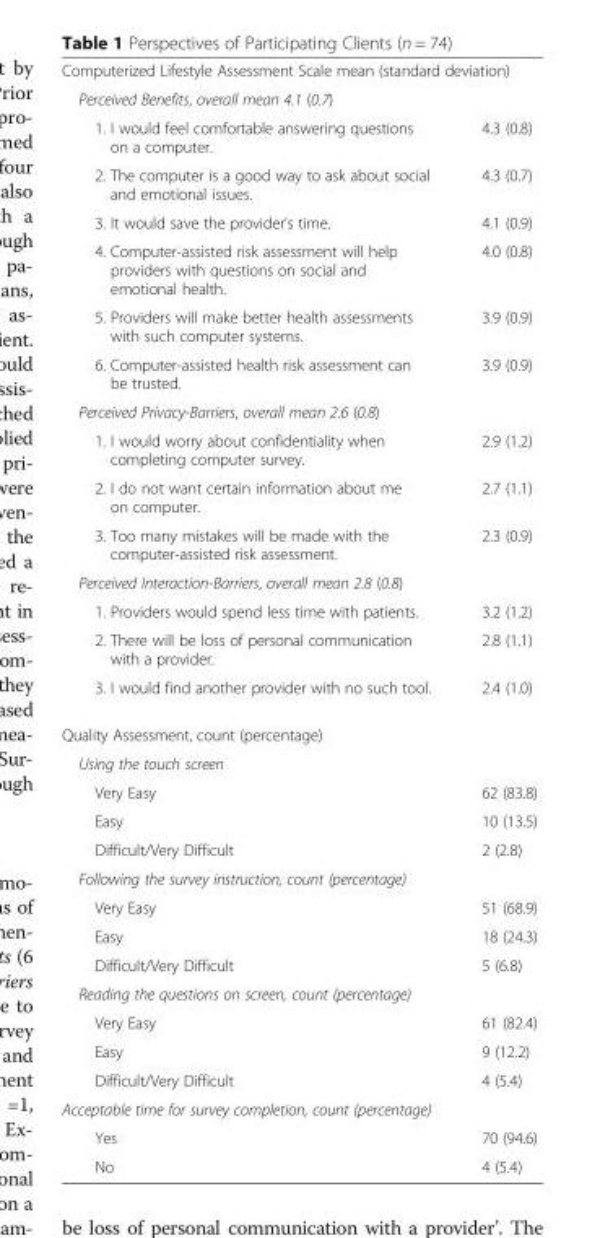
<table><tbody><tr><td colspan="2">Computerized Lifestyle Assessment Scale mean (standard deviation)</td></tr><tr><td colspan="2">Perceived Benefits, overall mean 4.1 (0.7)</td></tr><tr><td>1. I would feel comfortable answering questions on a computer.</td><td>4.3 (0.8)</td></tr><tr><td>2. The computer is a good way to ask about social and emotional issues.</td><td>4.3 (0.7)</td></tr><tr><td>3. It would save the provider’s time.</td><td>4.1 (0.9)</td></tr><tr><td>4. Computer-assisted risk assessment will help providers with questions on social and emotional health.</td><td>4.0 (0.8)</td></tr><tr><td>5. Providers will make better health assessments with such computer systems.</td><td>3.9 (0.9)</td></tr><tr><td>6. Computer-assisted health risk assessment can be trusted.</td><td>3.9 (0.9)</td></tr><tr><td colspan="2">Perceived Privacy-Barriers, overall mean 2.6 (0.8)</td></tr><tr><td>1. I would worry about confidentiality when completing computer survey.</td><td>2.9 (1.2)</td></tr><tr><td>2. I do not want certain information about me on computer.</td><td>2.7 (1.1)</td></tr><tr><td>3. Too many mistakes will be made with the computer-assisted risk assessment.</td><td>2.3 (0.9)</td></tr><tr><td colspan="2">Perceived Interaction-Barriers, overall mean 2.8 (0.8)</td></tr><tr><td>1. Providers would spend less time with patients.</td><td>3.2 (1.2)</td></tr><tr><td>2. There will be loss of personal communication with a provider.</td><td>2.8 (1.1)</td></tr><tr><td>3. I would find another provider with no such tool.</td><td>2.4 (1.0)</td></tr><tr><td colspan="2">Quality Assessment, count (percentage)</td></tr><tr><td colspan="2">Using the touch screen</td></tr><tr><td>Very Easy</td><td>62 (83.8)</td></tr><tr><td>Easy</td><td>10 (13.5)</td></tr><tr><td>Difficult/Very Difficult</td><td>2 (2.8)</td></tr><tr><td colspan="2">Following the survey instruction, count (percentage)</td></tr><tr><td>Very Easy</td><td>51 (68.9)</td></tr><tr><td>Easy</td><td>18 (24.3)</td></tr><tr><td>Difficult/Very Difficult</td><td>5 (6.8)</td></tr><tr><td colspan="2">Reading the questions on screen, count (percentage)</td></tr><tr><td>Very Easy</td><td>61 (82.4)</td></tr><tr><td>Easy</td><td>9 (12.2)</td></tr><tr><td>Difficult/Very Difficult</td><td>4 (5.4)</td></tr><tr><td colspan="2">Acceptable time for survey completion, count (percentage)</td></tr><tr><td>Yes</td><td>70 (94.6)</td></tr><tr><td>No</td><td>4 (5.4)</td></tr></tbody></table>